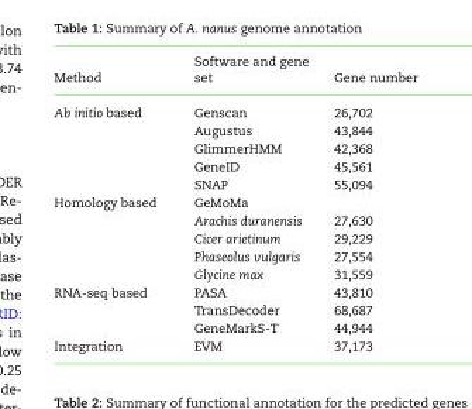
<table><thead><tr><td>Method</td><td>Software and gene set</td><td>Gene number</td></tr></thead><tbody><tr><td rowspan="5">Ab initio based</td><td>Genscan</td><td>26,702</td></tr><tr><td>Augustus</td><td>43,844</td></tr><tr><td>GlimmerHMM</td><td>42,368</td></tr><tr><td>GeneID</td><td>45,561</td></tr><tr><td>SNAP</td><td>55,094</td></tr><tr><td rowspan="5">Homology based</td><td>GeMoMa</td><td></td></tr><tr><td>Arachis duranensis</td><td>27,630</td></tr><tr><td>Cicer arietinum</td><td>29,229</td></tr><tr><td>Phaseolus vulgaris</td><td>27,554</td></tr><tr><td>Glycine max</td><td>31,559</td></tr><tr><td rowspan="3">RNA-seq based</td><td>PASA</td><td>43,810</td></tr><tr><td>TransDecoder</td><td>68,687</td></tr><tr><td>GeneMarkS-T</td><td>44,944</td></tr><tr><td>Integration</td><td>EVM</td><td>37,173</td></tr></tbody></table>